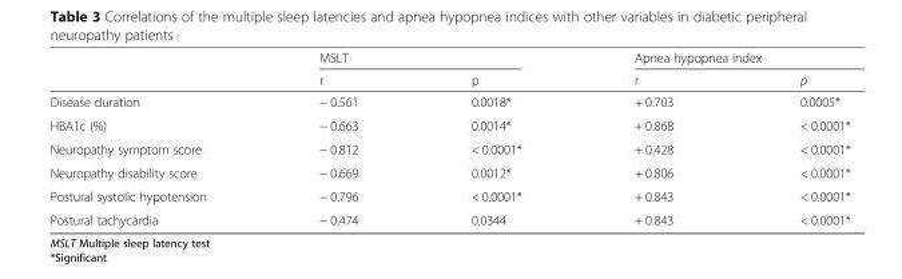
<table><thead><tr><td rowspan="2"></td><td colspan="2">MSLT</td><td colspan="2">Apnea hypopnea index</td></tr><tr><td>r</td><td>p</td><td>r</td><td>p</td></tr></thead><tbody><tr><td>Disease duration</td><td>− 0.561</td><td>0.0018*</td><td>+ 0.703</td><td>0.0005*</td></tr><tr><td>HBA1c (%)</td><td>− 0.663</td><td>0.0014*</td><td>+ 0.868</td><td>&lt; 0.0001*</td></tr><tr><td>Neuropathy symptom score</td><td>− 0.812</td><td>&lt; 0.0001*</td><td>+ 0.428</td><td>&lt; 0.0001*</td></tr><tr><td>Neuropathy disability score</td><td>− 0.669</td><td>0.0012*</td><td>+ 0.806</td><td>&lt; 0.0001*</td></tr><tr><td>Postural systolic hypotension</td><td>− 0.796</td><td>&lt; 0.0001*</td><td>+ 0.843</td><td>&lt; 0.0001*</td></tr><tr><td>Postural tachycardia</td><td>− 0.474</td><td>0.0344</td><td>+ 0.843</td><td>&lt; 0.0001*</td></tr></tbody></table>